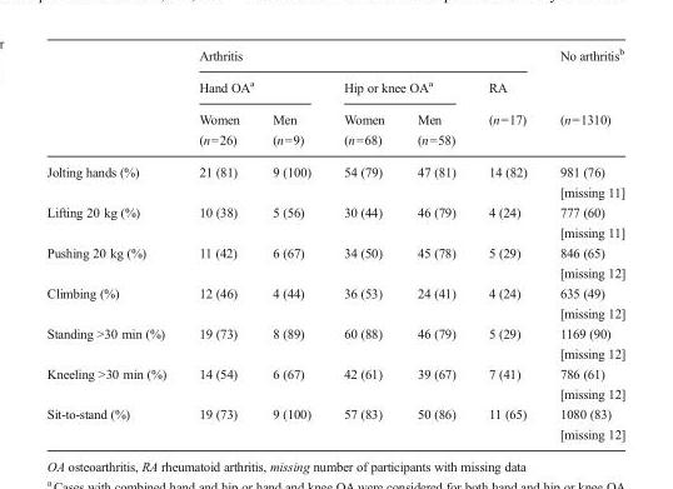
<table><thead><tr><td rowspan="3"></td><td colspan="5">Arthritis</td><td rowspan="3">No arthritis<sup>b</sup> (n=1310)</td></tr><tr><td colspan="2">Hand OA<sup>a</sup></td><td colspan="2">Hip or knee OA<sup>a</sup></td><td rowspan="2">RA (n=17)</td></tr><tr><td>Women (n=26)</td><td>Men (n=9)</td><td>Women (n=68)</td><td>Men (n=58)</td></tr></thead><tbody><tr><td>Jolting hands (%)</td><td>21 (81)</td><td>9 (100)</td><td>54 (79)</td><td>47 (81)</td><td>14 (82)</td><td>981 (76) [missing 11]</td></tr><tr><td>Lifting 20 kg (%)</td><td>10 (38)</td><td>5 (56)</td><td>30 (44)</td><td>46 (79)</td><td>4 (24)</td><td>777 (60) [missing 11]</td></tr><tr><td>Pushing 20 kg (%)</td><td>11 (42)</td><td>6 (67)</td><td>34 (50)</td><td>45 (78)</td><td>5 (29)</td><td>846 (65) [missing 12]</td></tr><tr><td>Climbing (%)</td><td>12 (46)</td><td>4 (44)</td><td>36 (53)</td><td>24 (41)</td><td>4 (24)</td><td>635 (49) [missing 12]</td></tr><tr><td>Standing &gt;30 min (%)</td><td>19 (73)</td><td>8 (89)</td><td>60 (88)</td><td>46 (79)</td><td>5 (29)</td><td>1169 (90) [missing 12]</td></tr><tr><td>Kneeling &gt;30 min (%)</td><td>14 (54)</td><td>6 (67)</td><td>42 (61)</td><td>39 (67)</td><td>7 (41)</td><td>786 (61) [missing 12]</td></tr><tr><td>Sit-to-stand (%)</td><td>19 (73)</td><td>9 (100)</td><td>57 (83)</td><td>50 (86)</td><td>11 (65)</td><td>1080 (83) [missing 12]</td></tr></tbody></table>